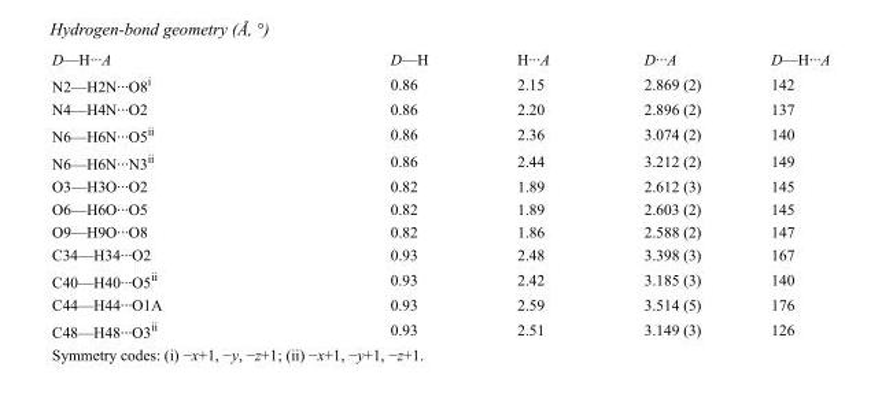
<table><tbody><tr><td>D—H···A</td><td>D—H</td><td>H···A</td><td>D···A</td><td>D—H···A</td></tr><tr><td>N2—H2N···O8<sup>i</sup></td><td>0.86</td><td>2.15</td><td>2.869 (2)</td><td>142</td></tr><tr><td>N4—H4N···O2</td><td>0.86</td><td>2.20</td><td>2.896 (2)</td><td>137</td></tr><tr><td>N6—H6N···O5<sup>ii</sup></td><td>0.86</td><td>2.36</td><td>3.074 (2)</td><td>140</td></tr><tr><td>N6—H6N···N3<sup>ii</sup></td><td>0.86</td><td>2.44</td><td>3.212 (2)</td><td>149</td></tr><tr><td>O3—H3O···O2</td><td>0.82</td><td>1.89</td><td>2.612 (3)</td><td>145</td></tr><tr><td>O6—H6O···O5</td><td>0.82</td><td>1.89</td><td>2.603 (2)</td><td>145</td></tr><tr><td>O9—H9O···O8</td><td>0.82</td><td>1.86</td><td>2.588 (2)</td><td>147</td></tr><tr><td>C34—H34···O2</td><td>0.93</td><td>2.48</td><td>3.398 (3)</td><td>167</td></tr><tr><td>C40—H40···O5<sup>ii</sup></td><td>0.93</td><td>2.42</td><td>3.185 (3)</td><td>140</td></tr><tr><td>C44—H44···O1A</td><td>0.93</td><td>2.59</td><td>3.514 (5)</td><td>176</td></tr><tr><td>C48—H48···O3<sup>ii</sup></td><td>0.93</td><td>2.51</td><td>3.149 (3)</td><td>126</td></tr></tbody></table>